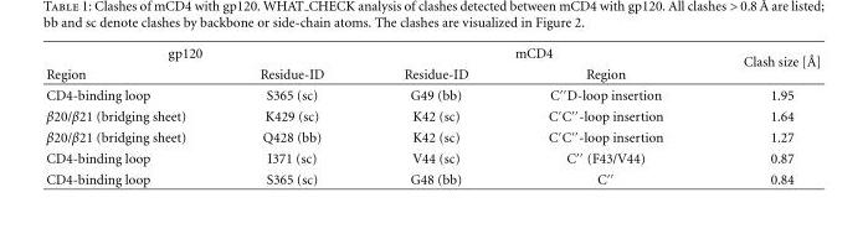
<table><thead><tr><td colspan="2">gp120</td><td colspan="2">mCD4</td><td rowspan="2">Clash size [ ˚A]</td></tr><tr><td>Region</td><td>Residue-ID</td><td>Residue-ID</td><td>Region</td></tr></thead><tbody><tr><td>CD4-binding loop</td><td>S365 (sc)</td><td>G49 (bb)</td><td>C′′D-loop insertion</td><td>1.95</td></tr><tr><td>β20/β21 (bridging sheet)</td><td>K429 (sc)</td><td>K42 (sc)</td><td>C′C′′-loop insertion</td><td>1.64</td></tr><tr><td>β20/β21 (bridging sheet)</td><td>Q428 (bb)</td><td>K42 (sc)</td><td>C′C′′-loop insertion</td><td>1.27</td></tr><tr><td>CD4-binding loop</td><td>I371 (sc)</td><td>V44 (sc)</td><td>C′′ (F43/V44)</td><td>0.87</td></tr><tr><td>CD4-binding loop</td><td>S365 (sc)</td><td>G48 (bb)</td><td>C′′</td><td>0.84</td></tr></tbody></table>